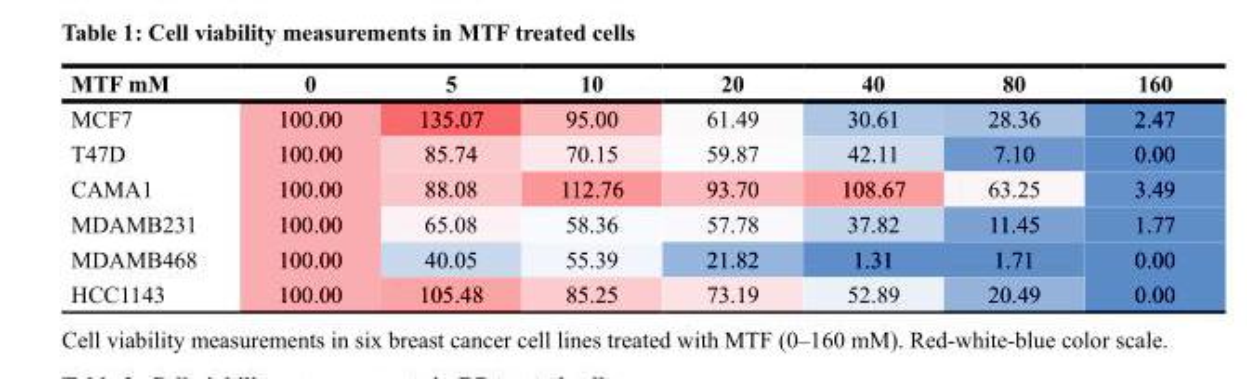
<table><thead><tr><td>MTF mM</td><td>0</td><td>5</td><td>10</td><td>20</td><td>40</td><td>80</td><td>160</td></tr></thead><tbody><tr><td>MCF7</td><td>100.00</td><td>135.07</td><td>95.00</td><td>61.49</td><td>30.61</td><td>28.36</td><td>2.47</td></tr><tr><td>T47D</td><td>100.00</td><td>85.74</td><td>70.15</td><td>59.87</td><td>42.11</td><td>7.10</td><td>0.00</td></tr><tr><td>CAMA1</td><td>100.00</td><td>88.08</td><td>112.76</td><td>93.70</td><td>108.67</td><td>63.25</td><td>3.49</td></tr><tr><td>MDAMB231</td><td>100.00</td><td>65.08</td><td>58.36</td><td>57.78</td><td>37.82</td><td>11.45</td><td>1.77</td></tr><tr><td>MDAMB468</td><td>100.00</td><td>40.05</td><td>55.39</td><td>21.82</td><td>1.31</td><td>1.71</td><td>0.00</td></tr><tr><td>HCC1143</td><td>100.00</td><td>105.48</td><td>85.25</td><td>73.19</td><td>52.89</td><td>20.49</td><td>0.00</td></tr></tbody></table>